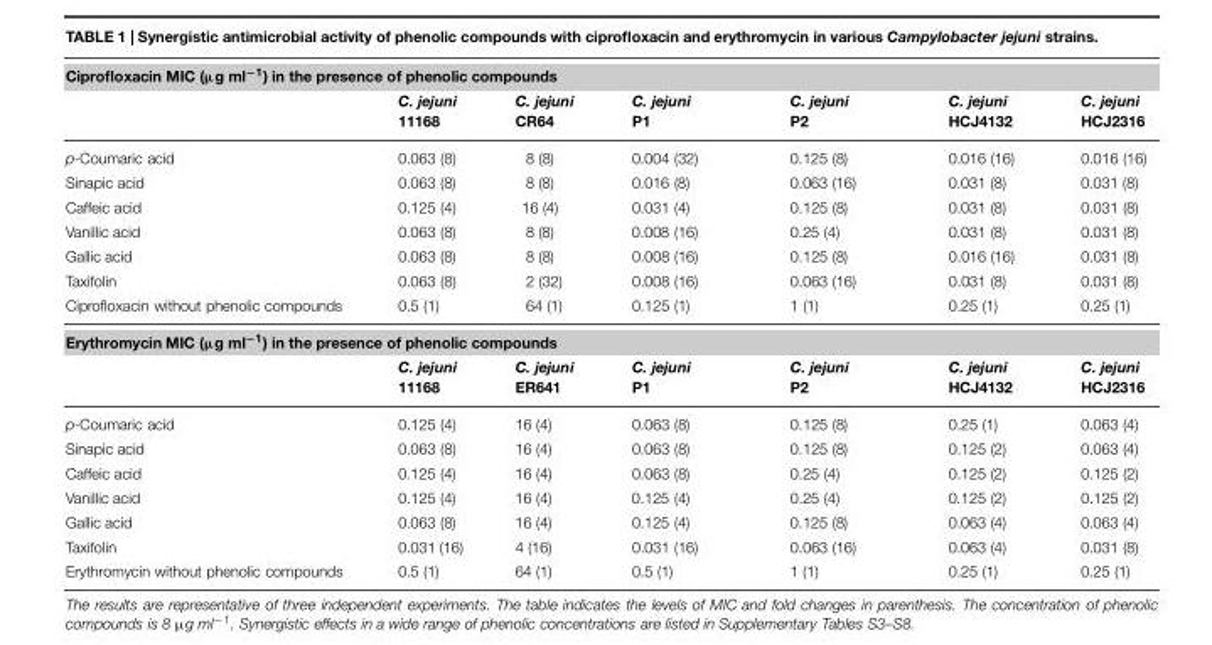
<table><thead><tr><td colspan="7">Ciprofloxacin MIC (µg ml<sup>−1</sup>) in the presence of phenolic compounds</td></tr><tr><td></td><td>C. jejuni 11168</td><td>C. jejuni CR64</td><td>C. jejuni P1</td><td>C. jejuni P2</td><td>C. jejuni HCJ4132</td><td>C. jejuni HCJ2316</td></tr></thead><tbody><tr><td>p-Coumaric acid</td><td>0.063 (8)</td><td>8 (8)</td><td>0.004 (32)</td><td>0.125 (8)</td><td>0.016 (16)</td><td>0.016 (16)</td></tr><tr><td>Sinapic acid</td><td>0.063 (8)</td><td>8 (8)</td><td>0.016 (8)</td><td>0.063 (16)</td><td>0.031 (8)</td><td>0.031 (8)</td></tr><tr><td>Caffeic acid</td><td>0.125 (4)</td><td>16 (4)</td><td>0.031 (4)</td><td>0.125 (8)</td><td>0.031 (8)</td><td>0.031 (8)</td></tr><tr><td>Vanillic acid</td><td>0.063 (8)</td><td>8 (8)</td><td>0.008 (16)</td><td>0.25 (4)</td><td>0.031 (8)</td><td>0.031 (8)</td></tr><tr><td>Gallic acid</td><td>0.063 (8)</td><td>8 (8)</td><td>0.008 (16)</td><td>0.125 (8)</td><td>0.016 (16)</td><td>0.031 (8)</td></tr><tr><td>Taxifolin</td><td>0.063 (8)</td><td>2 (32)</td><td>0.008 (16)</td><td>0.063 (16)</td><td>0.031 (8)</td><td>0.031 (8)</td></tr><tr><td>Ciprofloxacin without phenolic compounds</td><td>0.5 (1)</td><td>64 (1)</td><td>0.125 (1)</td><td>1 (1)</td><td>0.25 (1)</td><td>0.25 (1)</td></tr><tr><td colspan="7">Erythromycin MIC (µg ml<sup>−1</sup>) in the presence of phenolic compounds</td></tr><tr><td></td><td>C. jejuni 11168</td><td>C. jejuni ER641</td><td>C. jejuni P1</td><td>C. jejuni P2</td><td>C. jejuni HCJ4132</td><td>C. jejuni HCJ2316</td></tr><tr><td>p-Coumaric acid</td><td>0.125 (4)</td><td>16 (4)</td><td>0.063 (8)</td><td>0.125 (8)</td><td>0.25 (1)</td><td>0.063 (4)</td></tr><tr><td>Sinapic acid</td><td>0.063 (8)</td><td>16 (4)</td><td>0.063 (8)</td><td>0.125 (8)</td><td>0.125 (2)</td><td>0.063 (4)</td></tr><tr><td>Caffeic acid</td><td>0.125 (4)</td><td>16 (4)</td><td>0.063 (8)</td><td>0.25 (4)</td><td>0.125 (2)</td><td>0.125 (2)</td></tr><tr><td>Vanillic acid</td><td>0.125 (4)</td><td>16 (4)</td><td>0.125 (4)</td><td>0.25 (4)</td><td>0.125 (2)</td><td>0.125 (2)</td></tr><tr><td>Gallic acid</td><td>0.063 (8)</td><td>16 (4)</td><td>0.125 (4)</td><td>0.125 (8)</td><td>0.063 (4)</td><td>0.063 (4)</td></tr><tr><td>Taxifolin</td><td>0.031 (16)</td><td>4 (16)</td><td>0.031 (16)</td><td>0.063 (16)</td><td>0.063 (4)</td><td>0.031 (8)</td></tr><tr><td>Erythromycin without phenolic compounds</td><td>0.5 (1)</td><td>64 (1)</td><td>0.5 (1)</td><td>1 (1)</td><td>0.25 (1)</td><td>0.25 (1)</td></tr></tbody></table>